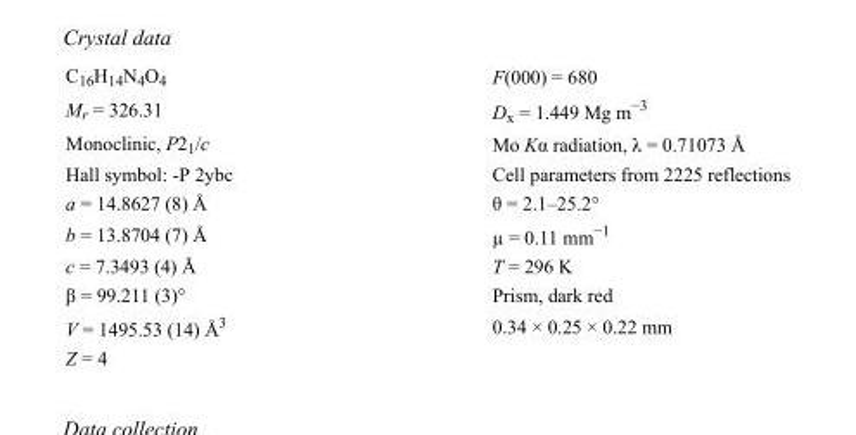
<table><tbody><tr><td>C<sub>16</sub>H<sub>14</sub>N<sub>4</sub>O<sub>4</sub></td><td>F(000) = 680</td></tr><tr><td>M<sub>r</sub> = 326.31</td><td>D<sub>x</sub> = 1.449 Mg m<sup>−3</sup></td></tr><tr><td>Monoclinic, P2<sub>1</sub>/c</td><td>Mo Kα radiation, λ = 0.71073 Å</td></tr><tr><td>Hall symbol: -P 2ybc</td><td>Cell parameters from 2225 reflections</td></tr><tr><td>a = 14.8627 (8) Å</td><td>θ = 2.1–25.2°</td></tr><tr><td>b = 13.8704 (7) Å</td><td>µ = 0.11 mm<sup>−1</sup></td></tr><tr><td>c = 7.3493 (4) Å</td><td>T = 296 K</td></tr><tr><td>β = 99.211 (3)°</td><td>Prism, dark red</td></tr><tr><td>V = 1495.53 (14) Å<sup>3</sup></td><td>0.34 × 0.25 × 0.22 mm</td></tr><tr><td>Z = 4</td><td></td></tr></tbody></table>